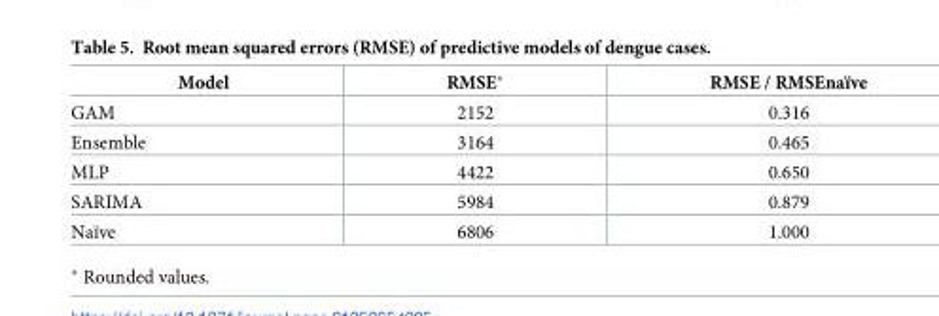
<table><thead><tr><td>Model</td><td>RMSE*</td><td>RMSE / RMSEnaïve</td></tr></thead><tbody><tr><td>GAM</td><td>2152</td><td>0.316</td></tr><tr><td>Ensemble</td><td>3164</td><td>0.465</td></tr><tr><td>MLP</td><td>4422</td><td>0.650</td></tr><tr><td>SARIMA</td><td>5984</td><td>0.879</td></tr><tr><td>Naïve</td><td>6806</td><td>1.000</td></tr></tbody></table>